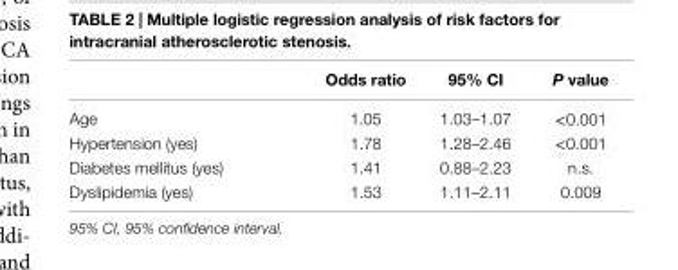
<table><thead><tr><td></td><td>Odds ratio</td><td>95% ci</td><td>P value</td></tr></thead><tbody><tr><td>Age</td><td>1.05</td><td>1.03–1.07</td><td>&lt;0.001</td></tr><tr><td>Hypertension (yes)</td><td>1.78</td><td>1.28–2.46</td><td>&lt;0.001</td></tr><tr><td>Diabetes mellitus (yes)</td><td>1.41</td><td>0.88–2.23</td><td>n.s.</td></tr><tr><td>Dyslipidemia (yes)</td><td>1.53</td><td>1.11–2.11</td><td>0.009</td></tr></tbody></table>